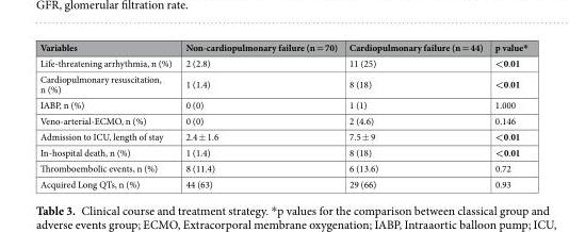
<table><thead><tr><td>Variables</td><td>Non-cardiopulmonary failure (n = 70)</td><td>Cardiopulmonary failure (n = 44)</td><td>p value*</td></tr></thead><tbody><tr><td>Life-threatening arrhythmia, n (%)</td><td>2 (2.8)</td><td>11 (25)</td><td>&lt;0.01</td></tr><tr><td>Cardiopulmonary resuscitation, n (%)</td><td>1 (1.4)</td><td>8 (18)</td><td>&lt;0.01</td></tr><tr><td>IABP, n (%)</td><td>0 (0)</td><td>1 (1)</td><td>1.000</td></tr><tr><td>Veno-arterial-ECMO, n (%)</td><td>0 (0)</td><td>2 (4.6)</td><td>0.146</td></tr><tr><td>Admission to ICU, length of stay</td><td>2.4 ± 1.6</td><td>7.5 ± 9</td><td>&lt;0.01</td></tr><tr><td>In-hospital death, n (%)</td><td>1 (1.4)</td><td>8 (18)</td><td>&lt;0.01</td></tr><tr><td>Thromboembolic events, n (%)</td><td>8 (11.4)</td><td>6 (13.6)</td><td>0.72</td></tr><tr><td>Acquired Long QTs, n (%)</td><td>44 (63)</td><td>29 (66)</td><td>0.93</td></tr></tbody></table>